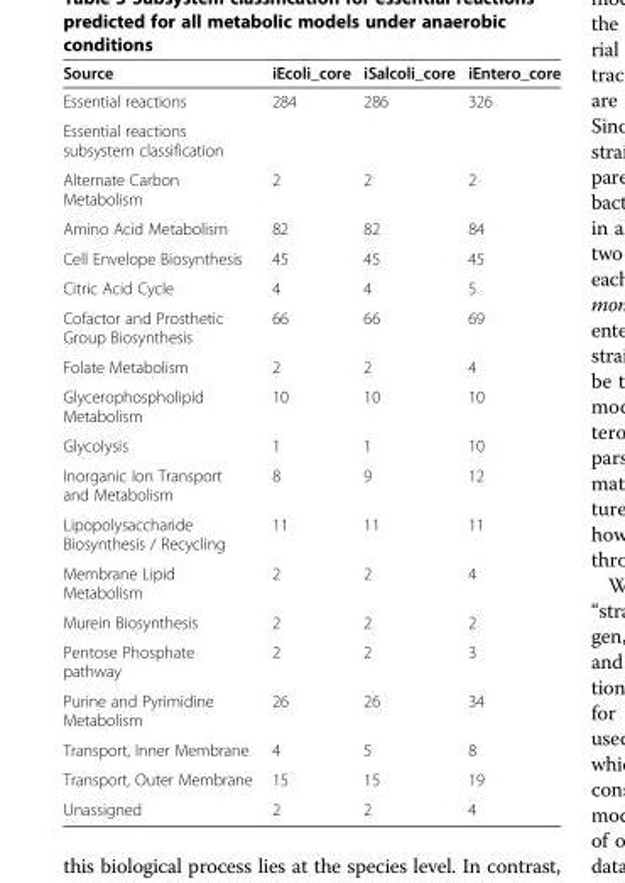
<table><thead><tr><td>Source</td><td>iEcoli_core</td><td>iSalcoli_core</td><td>iEntero_core</td></tr></thead><tbody><tr><td>Essential reactions</td><td>284</td><td>286</td><td>326</td></tr><tr><td colspan="4">Essential reactions subsystem classification</td></tr><tr><td>Alternate Carbon Metabolism</td><td>2</td><td>2</td><td>2</td></tr><tr><td>Amino Acid Metabolism</td><td>82</td><td>82</td><td>84</td></tr><tr><td>Cell Envelope Biosynthesis</td><td>45</td><td>45</td><td>45</td></tr><tr><td>Citric Acid Cycle</td><td>4</td><td>4</td><td>5</td></tr><tr><td>Cofactor and Prosthetic Group Biosynthesis</td><td>66</td><td>66</td><td>69</td></tr><tr><td>Folate Metabolism</td><td>2</td><td>2</td><td>4</td></tr><tr><td>Glycerophospholipid Metabolism</td><td>10</td><td>10</td><td>10</td></tr><tr><td>Glycolysis</td><td>1</td><td>1</td><td>10</td></tr><tr><td>Inorganic Ion Transport and Metabolism</td><td>8</td><td>9</td><td>12</td></tr><tr><td>Lipopolysaccharide Biosynthesis / Recycling</td><td>11</td><td>11</td><td>11</td></tr><tr><td>Membrane Lipid Metabolism</td><td>2</td><td>2</td><td>4</td></tr><tr><td>Murein Biosynthesis</td><td>2</td><td>2</td><td>2</td></tr><tr><td>Pentose Phosphate pathway</td><td>2</td><td>2</td><td>3</td></tr><tr><td>Purine and Pyrimidine Metabolism</td><td>26</td><td>26</td><td>34</td></tr><tr><td>Transport, Inner Membrane</td><td>4</td><td>5</td><td>8</td></tr><tr><td>Transport, Outer Membrane</td><td>15</td><td>15</td><td>19</td></tr><tr><td>Unassigned</td><td>2</td><td>2</td><td>4</td></tr></tbody></table>